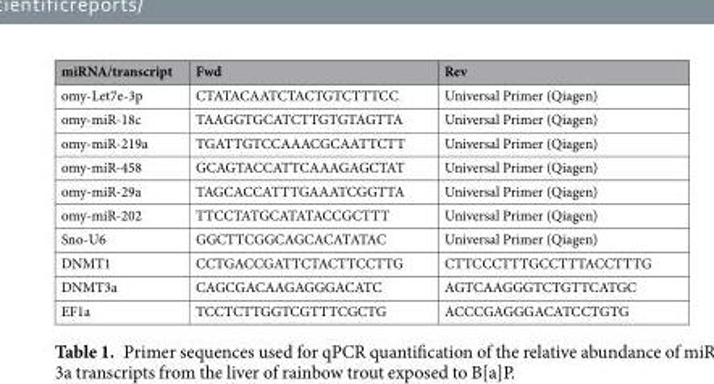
<table><thead><tr><td>miRNA/transcript</td><td>Fwd</td><td>Rev</td></tr></thead><tbody><tr><td>omy-Let7e-3p</td><td>CTATACAATCTACTGTCTTTCC</td><td>Universal Primer (Qiagen)</td></tr><tr><td>omy-miR-18c</td><td>TAAGGTGCATCTTGTGTAGTTA</td><td>Universal Primer (Qiagen)</td></tr><tr><td>omy-miR-219a</td><td>TGATTGTCCAAACGCAATTCTT</td><td>Universal Primer (Qiagen)</td></tr><tr><td>omy-miR-458</td><td>GCAGTACCATTCAAAGAGCTAT</td><td>Universal Primer (Qiagen)</td></tr><tr><td>omy-miR-29a</td><td>TAGCACCATTTGAAATCGGTTA</td><td>Universal Primer (Qiagen)</td></tr><tr><td>omy-miR-202</td><td>TTCCTATGCATATACCGCTTT</td><td>Universal Primer (Qiagen)</td></tr><tr><td>Sno-U6</td><td>GGCTTCGGCAGCACATATAC</td><td>Universal Primer (Qiagen)</td></tr><tr><td>DNMT1</td><td>CCTGACCGATTCTACTTCCTTG</td><td>CTTCCCTTTGCCTTTACCTTTG</td></tr><tr><td>DNMT3a</td><td>CAGCGACAAGAGGGACATC</td><td>AGTCAAGGGTCTGTTCATGC</td></tr><tr><td>EF1a</td><td>TCCTCTTGGTCGTTTCGCTG</td><td>ACCCGAGGGACATCCTGTG</td></tr></tbody></table>